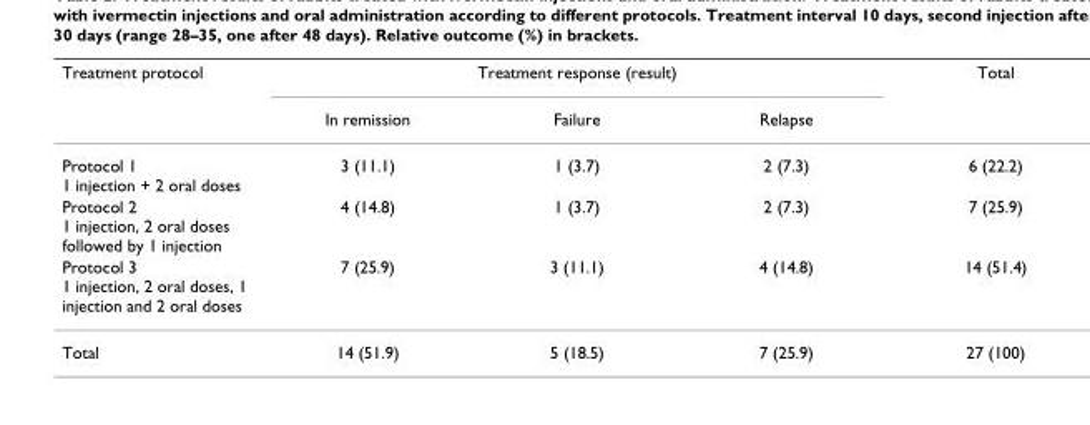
<table><thead><tr><td rowspan="2">Treatment protocol</td><td colspan="3">Treatment response (result)</td><td rowspan="2">Total</td></tr><tr><td>In remission</td><td>Failure</td><td>Relapse</td></tr></thead><tbody><tr><td>Protocol 1 1 injection + 2 oral doses</td><td>3 (11.1)</td><td>1 (3.7)</td><td>2 (7.3)</td><td>6 (22.2)</td></tr><tr><td>Protocol 2 1 injection, 2 oral doses followed by 1 injection</td><td>4 (14.8)</td><td>1 (3.7)</td><td>2 (7.3)</td><td>7 (25.9)</td></tr><tr><td>Protocol 3 1 injection, 2 oral doses, 1 injection and 2 oral doses</td><td>7 (25.9)</td><td>3 (11.1)</td><td>4 (14.8)</td><td>14 (51.4)</td></tr><tr><td>Total</td><td>14 (51.9)</td><td>5 (18.5)</td><td>7 (25.9)</td><td>27 (100)</td></tr></tbody></table>